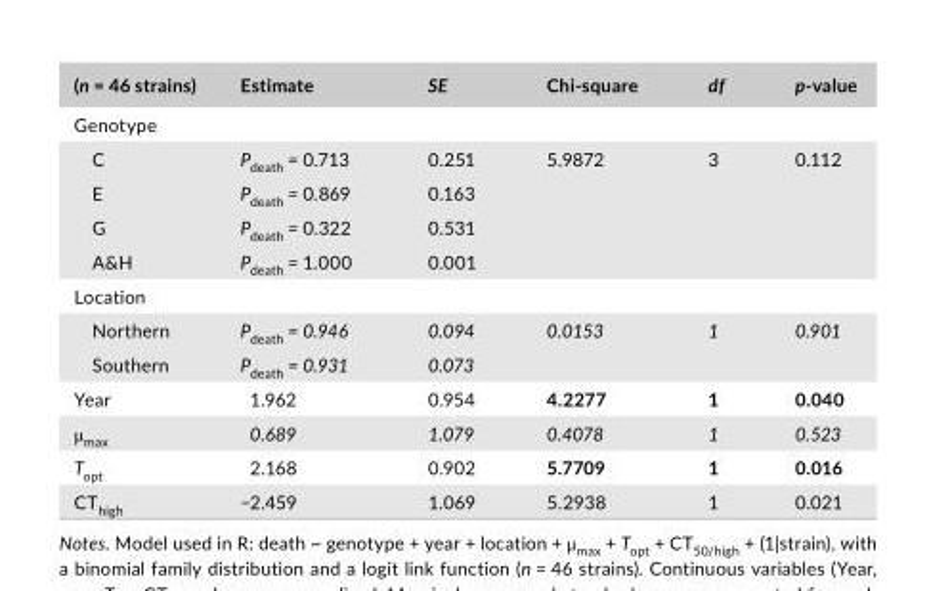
<table><thead><tr><td>(n = 46 strains)</td><td>Estimate</td><td>SE</td><td>Chi- square</td><td>df</td><td>p- value</td></tr></thead><tbody><tr><td colspan="6">Genotype</td></tr><tr><td>C</td><td>P<sub>death</sub> = 0.713</td><td>0.251</td><td rowspan="4">5.9872</td><td rowspan="4">3</td><td rowspan="4">0.112</td></tr><tr><td>E</td><td>P<sub>death</sub> = 0.869</td><td>0.163</td></tr><tr><td>G</td><td>P<sub>death</sub> = 0.322</td><td>0.531</td></tr><tr><td>A&amp;H</td><td>P<sub>death</sub> = 1.000</td><td>0.001</td></tr><tr><td colspan="6">Location</td></tr><tr><td>Northern</td><td>P<sub>death</sub> = 0.946</td><td>0.094</td><td rowspan="2">0.0153</td><td rowspan="2">1</td><td rowspan="2">0.901</td></tr><tr><td>Southern</td><td>P<sub>death</sub> = 0.931</td><td>0.073</td></tr><tr><td>Year</td><td>1.962</td><td>0.954</td><td>4.2277</td><td>1</td><td>0.040</td></tr><tr><td>μ<sub>max</sub></td><td>0.689</td><td>1.079</td><td>0.4078</td><td>1</td><td>0.523</td></tr><tr><td>T<sub>opt</sub></td><td>2.168</td><td>0.902</td><td>5.7709</td><td>1</td><td>0.016</td></tr><tr><td>CT<sub>high</sub></td><td>−2.459</td><td>1.069</td><td>5.2938</td><td>1</td><td>0.021</td></tr></tbody></table>